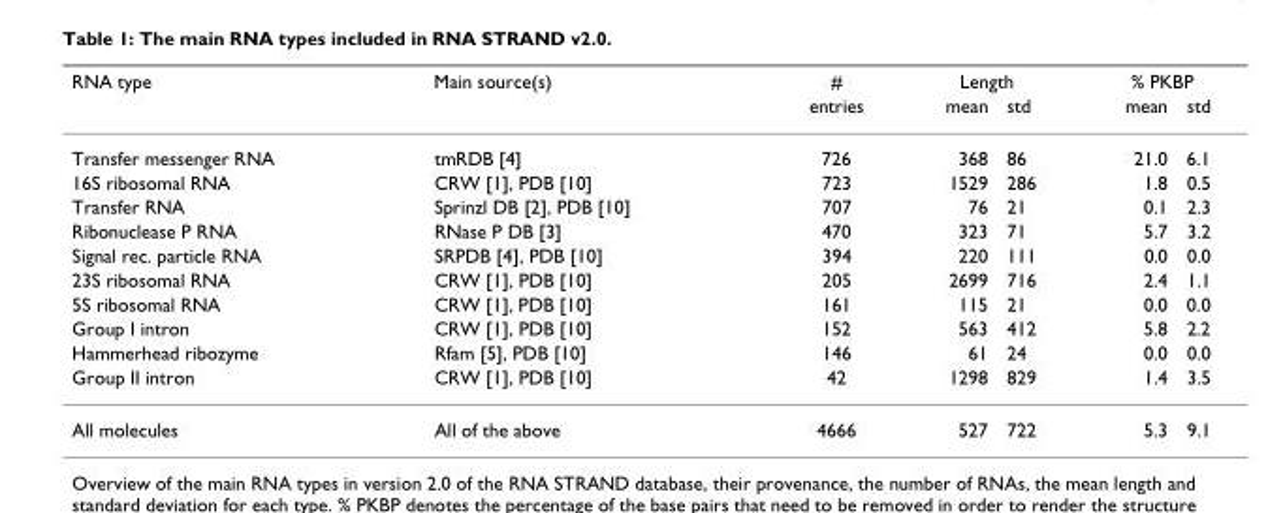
<table><thead><tr><td rowspan="2">RNA type</td><td rowspan="2">Main source(s)</td><td rowspan="2"># entries</td><td colspan="2">Length</td><td colspan="2">% PKBP</td></tr><tr><td>mean</td><td>std</td><td>mean</td><td>std</td></tr></thead><tbody><tr><td>Transfer messenger RNA</td><td>tmRDB [4]</td><td>726</td><td>368</td><td>86</td><td>21.0</td><td>6.1</td></tr><tr><td>16S ribosomal RNA</td><td>CRW [1], PDB [10]</td><td>723</td><td>1529</td><td>286</td><td>1.8</td><td>0.5</td></tr><tr><td>Transfer RNA</td><td>Sprinzl DB [2], PDB [10]</td><td>707</td><td>76</td><td>21</td><td>0.1</td><td>2.3</td></tr><tr><td>Ribonuclease P RNA</td><td>RNase P DB [3]</td><td>470</td><td>323</td><td>71</td><td>5.7</td><td>3.2</td></tr><tr><td>Signal rec. particle RNA</td><td>SRPDB [4], PDB [10]</td><td>394</td><td>220</td><td>111</td><td>0.0</td><td>0.0</td></tr><tr><td>23S ribosomal RNA</td><td>CRW [1], PDB [10]</td><td>205</td><td>2699</td><td>716</td><td>2.4</td><td>1.1</td></tr><tr><td>5S ribosomal RNA</td><td>CRW [1], PDB [10]</td><td>161</td><td>115</td><td>21</td><td>0.0</td><td>0.0</td></tr><tr><td>Group I intron</td><td>CRW [1], PDB [10]</td><td>152</td><td>563</td><td>412</td><td>5.8</td><td>2.2</td></tr><tr><td>Hammerhead ribozyme</td><td>Rfam [5], PDB [10]</td><td>146</td><td>61</td><td>24</td><td>0.0</td><td>0.0</td></tr><tr><td>Group II intron</td><td>CRW [1], PDB [10]</td><td>42</td><td>1298</td><td>829</td><td>1.4</td><td>3.5</td></tr><tr><td>All molecules</td><td>All of the above</td><td>4666</td><td>527</td><td>722</td><td>5.3</td><td>9.1</td></tr></tbody></table>